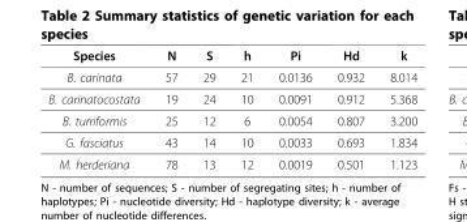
<table><thead><tr><td>Species</td><td>N</td><td>S</td><td>h</td><td>Pi</td><td>Hd</td><td>k</td></tr></thead><tbody><tr><td>B. carinata</td><td>57</td><td>29</td><td>21</td><td>0.0136</td><td>0.932</td><td>8.014</td></tr><tr><td>B. carinatocostata</td><td>19</td><td>24</td><td>10</td><td>0.0091</td><td>0.912</td><td>5.368</td></tr><tr><td>B. turriformis</td><td>25</td><td>12</td><td>6</td><td>0.0054</td><td>0.807</td><td>3.200</td></tr><tr><td>G. fasciatus</td><td>43</td><td>14</td><td>10</td><td>0.0033</td><td>0.693</td><td>1.834</td></tr><tr><td>M. herderiana</td><td>78</td><td>13</td><td>12</td><td>0.0019</td><td>0.501</td><td>1.123</td></tr></tbody></table>